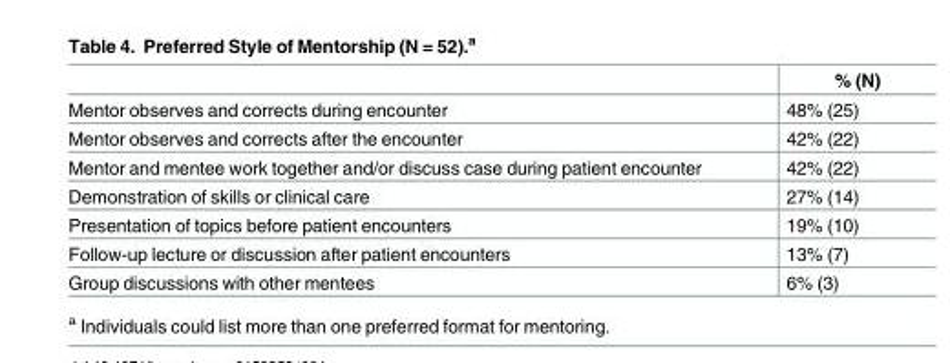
<table><thead><tr><td></td><td>% (N)</td></tr></thead><tbody><tr><td>Mentor observes and corrects during encounter</td><td>48% (25)</td></tr><tr><td>Mentor observes and corrects after the encounter</td><td>42% (22)</td></tr><tr><td>Mentor and mentee work together and/or discuss case during patient encounter</td><td>42% (22)</td></tr><tr><td>Demonstration of skills or clinical care</td><td>27% (14)</td></tr><tr><td>Presentation of topics before patient encounters</td><td>19% (10)</td></tr><tr><td>Follow-up lecture or discussion after patient encounters</td><td>13% (7)</td></tr><tr><td>Group discussions with other mentees</td><td>6% (3)</td></tr></tbody></table>